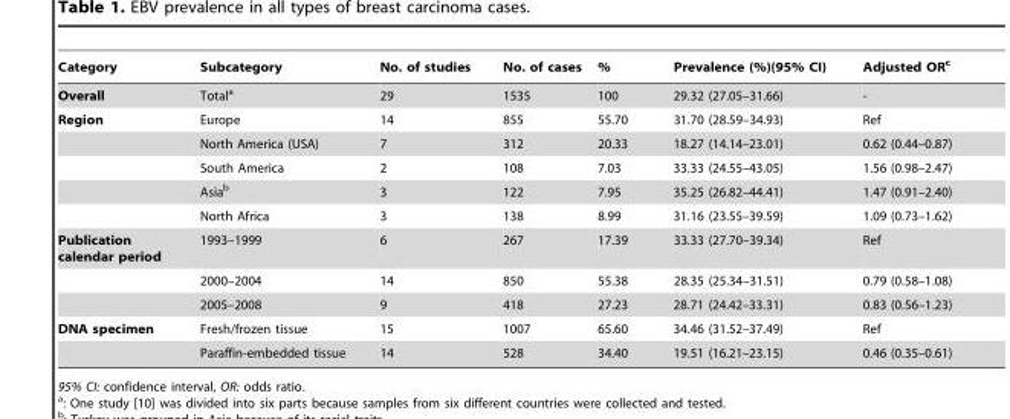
<table><thead><tr><td>Category</td><td>Subcategory</td><td>No. of studies</td><td>No. of cases</td><td>%</td><td>Prevalence (%)(95% CI)</td><td>Adjusted OR<sup>c</sup></td></tr></thead><tbody><tr><td>Overall</td><td>Total<sup>a</sup></td><td>29</td><td>1535</td><td>100</td><td>29.32 (27.05–31.66)</td><td>-</td></tr><tr><td rowspan="5">Region</td><td>Europe</td><td>14</td><td>855</td><td>55.70</td><td>31.70 (28.59–34.93)</td><td>Ref</td></tr><tr><td>North America (USA)</td><td>7</td><td>312</td><td>20.33</td><td>18.27 (14.14–23.01)</td><td>0.62 (0.44–0.87)</td></tr><tr><td>South America</td><td>2</td><td>108</td><td>7.03</td><td>33.33 (24.55–43.05)</td><td>1.56 (0.98–2.47)</td></tr><tr><td>Asia<sup>b</sup></td><td>3</td><td>122</td><td>7.95</td><td>35.25 (26.82–44.41)</td><td>1.47 (0.91–2.40)</td></tr><tr><td>North Africa</td><td>3</td><td>138</td><td>8.99</td><td>31.16 (23.55–39.59)</td><td>1.09 (0.73–1.62)</td></tr><tr><td rowspan="3">Publication calendar period</td><td>1993–1999</td><td>6</td><td>267</td><td>17.39</td><td>33.33 (27.70–39.34)</td><td>Ref</td></tr><tr><td>2000–2004</td><td>14</td><td>850</td><td>55.38</td><td>28.35 (25.34–31.51)</td><td>0.79 (0.58–1.08)</td></tr><tr><td>2005–2008</td><td>9</td><td>418</td><td>27.23</td><td>28.71 (24.42–33.31)</td><td>0.83 (0.56–1.23)</td></tr><tr><td rowspan="2">DNA specimen</td><td>Fresh/frozen tissue</td><td>15</td><td>1007</td><td>65.60</td><td>34.46 (31.52–37.49)</td><td>Ref</td></tr><tr><td>Paraffin-embedded tissue</td><td>14</td><td>528</td><td>34.40</td><td>19.51 (16.21–23.15)</td><td>0.46 (0.35–0.61)</td></tr></tbody></table>